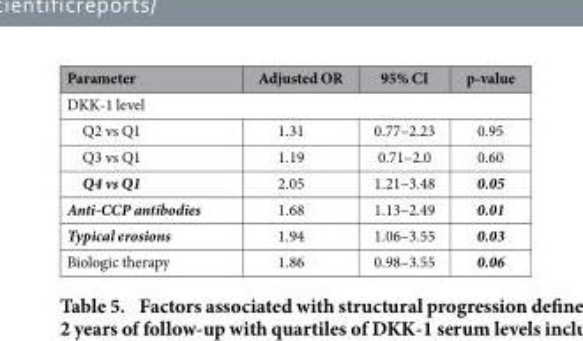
<table><thead><tr><td>Parameter</td><td>Adjusted OR</td><td>95% CI</td><td>p-value</td></tr></thead><tbody><tr><td colspan="4">DKK-1 level</td></tr><tr><td>Q2 vs Q1</td><td>1.31</td><td>0.77–2.23</td><td>0.95</td></tr><tr><td>Q3 vs Q1</td><td>1.19</td><td>0.71–2.0</td><td>0.60</td></tr><tr><td>Q4 vs Q1</td><td>2.05</td><td>1.21–3.48</td><td>0.05</td></tr><tr><td>Anti-CCP antibodies</td><td>1.68</td><td>1.13–2.49</td><td>0.01</td></tr><tr><td>Typical erosions</td><td>1.94</td><td>1.06–3.55</td><td>0.03</td></tr><tr><td>Biologic therapy</td><td>1.86</td><td>0.98–3.55</td><td>0.06</td></tr></tbody></table>